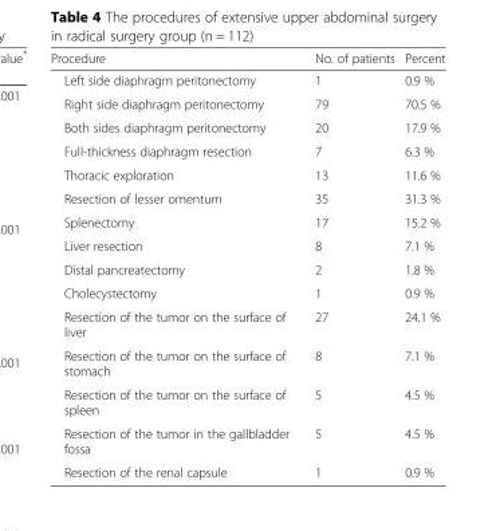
<table><thead><tr><td>Procedure</td><td>No. of patients</td><td>Percent</td></tr></thead><tbody><tr><td>Left side diaphragm peritonectomy</td><td>1</td><td>0.9 %</td></tr><tr><td>Right side diaphragm peritonectomy</td><td>79</td><td>70.5 %</td></tr><tr><td>Both sides diaphragm peritonectomy</td><td>20</td><td>17.9 %</td></tr><tr><td>Full-thickness diaphragm resection</td><td>7</td><td>6.3 %</td></tr><tr><td>Thoracic exploration</td><td>13</td><td>11.6 %</td></tr><tr><td>Resection of lesser omentum</td><td>35</td><td>31.3 %</td></tr><tr><td>Splenectomy</td><td>17</td><td>15.2 %</td></tr><tr><td>Liver resection</td><td>8</td><td>7.1 %</td></tr><tr><td>Distal pancreatectomy</td><td>2</td><td>1.8 %</td></tr><tr><td>Cholecystectomy</td><td>1</td><td>0.9 %</td></tr><tr><td>Resection of the tumor on the surface of liver</td><td>27</td><td>24.1 %</td></tr><tr><td>Resection of the tumor on the surface of stomach</td><td>8</td><td>7.1 %</td></tr><tr><td>Resection of the tumor on the surface of spleen</td><td>5</td><td>4.5 %</td></tr><tr><td>Resection of the tumor in the gallbladder fossa</td><td>5</td><td>4.5 %</td></tr><tr><td>Resection of the renal capsule</td><td>1</td><td>0.9 %</td></tr></tbody></table>